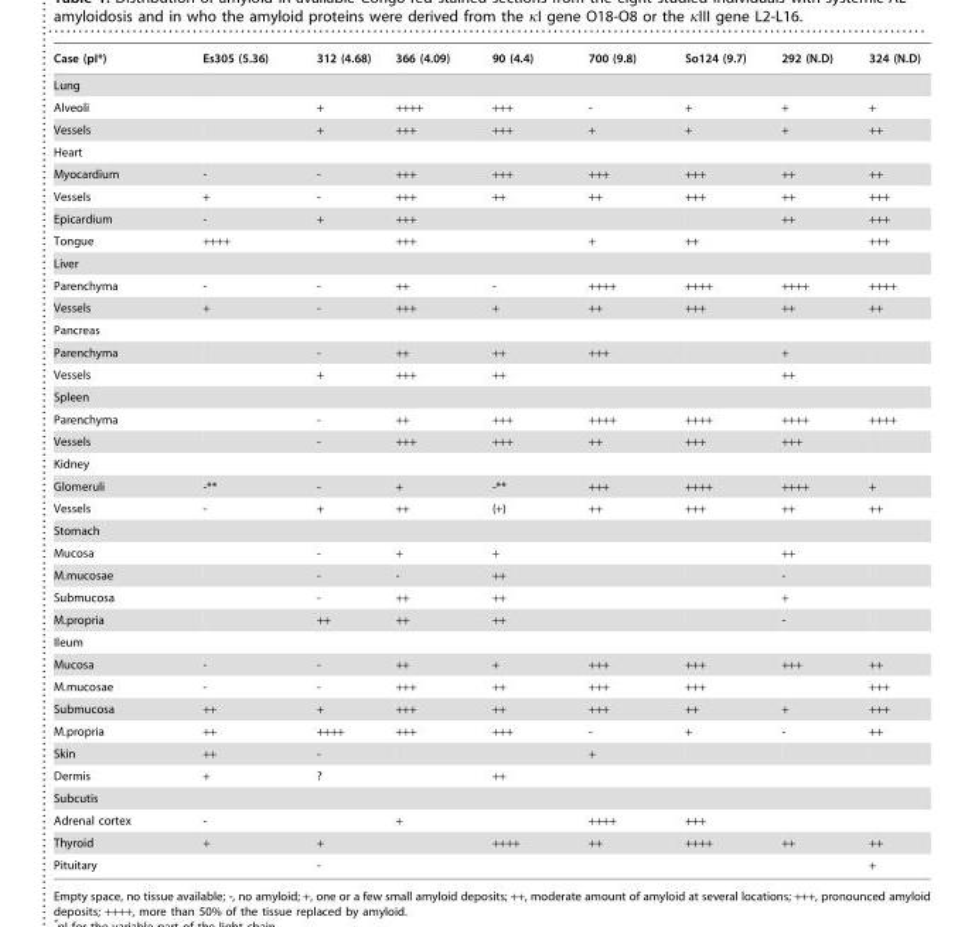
<table><thead><tr><td>Case (pI*)</td><td>Es305 (5.36)</td><td>312 (4.68)</td><td>366 (4.09)</td><td>90 (4.4)</td><td>700 (9.8)</td><td>So124 (9.7)</td><td>292 (N.D)</td><td>324 (N.D)</td></tr></thead><tbody><tr><td colspan="9">Lung</td></tr><tr><td>Alveoli</td><td></td><td>+</td><td>++++</td><td>+++</td><td>-</td><td>+</td><td>+</td><td>+</td></tr><tr><td>Vessels</td><td></td><td>+</td><td>+++</td><td>+++</td><td>+</td><td>+</td><td>+</td><td>++</td></tr><tr><td colspan="9">Heart</td></tr><tr><td>Myocardium</td><td>-</td><td>-</td><td>+++</td><td>+++</td><td>+++</td><td>+++</td><td>++</td><td>++</td></tr><tr><td>Vessels</td><td>+</td><td>-</td><td>+++</td><td>++</td><td>++</td><td>+++</td><td>++</td><td>+++</td></tr><tr><td>Epicardium</td><td>-</td><td>+</td><td>+++</td><td></td><td></td><td></td><td>++</td><td>+++</td></tr><tr><td>Tongue</td><td>++++</td><td></td><td>+++</td><td></td><td>+</td><td>++</td><td></td><td>+++</td></tr><tr><td colspan="9">Liver</td></tr><tr><td>Parenchyma</td><td>-</td><td>-</td><td>++</td><td>-</td><td>++++</td><td>++++</td><td>++++</td><td>++++</td></tr><tr><td>Vessels</td><td>+</td><td>-</td><td>+++</td><td>+</td><td>++</td><td>+++</td><td>++</td><td>++</td></tr><tr><td colspan="9">Pancreas</td></tr><tr><td>Parenchyma</td><td></td><td>-</td><td>++</td><td>++</td><td>+++</td><td></td><td>+</td><td></td></tr><tr><td>Vessels</td><td></td><td>+</td><td>+++</td><td>++</td><td></td><td></td><td>++</td><td></td></tr><tr><td colspan="9">Spleen</td></tr><tr><td>Parenchyma</td><td></td><td>-</td><td>++</td><td>+++</td><td>++++</td><td>++++</td><td>++++</td><td>++++</td></tr><tr><td>Vessels</td><td></td><td>-</td><td>+++</td><td>+++</td><td>++</td><td>+++</td><td>+++</td><td></td></tr><tr><td colspan="9">Kidney</td></tr><tr><td>Glomeruli</td><td>-**</td><td>-</td><td>+</td><td>-**</td><td>+++</td><td>++++</td><td>++++</td><td>+</td></tr><tr><td>Vessels</td><td>-</td><td>+</td><td>++</td><td>(+)</td><td>++</td><td>+++</td><td>++</td><td>++</td></tr><tr><td colspan="9">Stomach</td></tr><tr><td>Mucosa</td><td></td><td>-</td><td>+</td><td>+</td><td></td><td></td><td>++</td><td></td></tr><tr><td>M.mucosae</td><td></td><td>-</td><td>-</td><td>++</td><td></td><td></td><td>-</td><td></td></tr><tr><td>Submucosa</td><td></td><td>-</td><td>++</td><td>++</td><td></td><td></td><td>+</td><td></td></tr><tr><td>M.propria</td><td></td><td>++</td><td>++</td><td>++</td><td></td><td></td><td>-</td><td></td></tr><tr><td colspan="9">Ileum</td></tr><tr><td>Mucosa</td><td>-</td><td>-</td><td>++</td><td>+</td><td>+++</td><td>+++</td><td>+++</td><td>++</td></tr><tr><td>M.mucosae</td><td>-</td><td>-</td><td>+++</td><td>++</td><td>+++</td><td>+++</td><td></td><td>+++</td></tr><tr><td>Submucosa</td><td>++</td><td>+</td><td>+++</td><td>++</td><td>+++</td><td>++</td><td>+</td><td>+++</td></tr><tr><td>M.propria</td><td>++</td><td>++++</td><td>+++</td><td>+++</td><td>-</td><td>+</td><td>-</td><td>++</td></tr><tr><td>Skin</td><td>++</td><td>-</td><td></td><td></td><td>+</td><td></td><td></td><td></td></tr><tr><td>Dermis</td><td>+</td><td>?</td><td></td><td>++</td><td></td><td></td><td></td><td></td></tr><tr><td colspan="9">Subcutis</td></tr><tr><td>Adrenal cortex</td><td>-</td><td></td><td>+</td><td></td><td>++++</td><td>+++</td><td></td><td></td></tr><tr><td>Thyroid</td><td>+</td><td>+</td><td></td><td>++++</td><td>++</td><td>++++</td><td>++</td><td>++</td></tr><tr><td>Pituitary</td><td></td><td>-</td><td></td><td></td><td></td><td></td><td></td><td>+</td></tr></tbody></table>